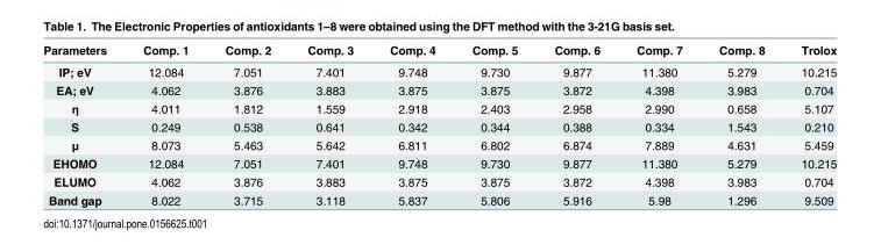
<table><thead><tr><td>Parameters</td><td>Comp. 1</td><td>Comp. 2</td><td>Comp. 3</td><td>Comp. 4</td><td>Comp. 5</td><td>Comp. 6</td><td>Comp. 7</td><td>Comp. 8</td><td>Trolox</td></tr></thead><tbody><tr><td>IP; eV</td><td>12.084</td><td>7.051</td><td>7.401</td><td>9.748</td><td>9.730</td><td>9.877</td><td>11.380</td><td>5.279</td><td>10.215</td></tr><tr><td>EA; eV</td><td>4.062</td><td>3.876</td><td>3.883</td><td>3.875</td><td>3.875</td><td>3.872</td><td>4.398</td><td>3.983</td><td>0.704</td></tr><tr><td>η</td><td>4.011</td><td>1.812</td><td>1.559</td><td>2.918</td><td>2.403</td><td>2.958</td><td>2.990</td><td>0.658</td><td>5.107</td></tr><tr><td>S</td><td>0.249</td><td>0.538</td><td>0.641</td><td>0.342</td><td>0.344</td><td>0.388</td><td>0.334</td><td>1.543</td><td>0.210</td></tr><tr><td>μ</td><td>8.073</td><td>5.463</td><td>5.642</td><td>6.811</td><td>6.802</td><td>6.874</td><td>7.889</td><td>4.631</td><td>5.459</td></tr><tr><td>EHOMO</td><td>12.084</td><td>7.051</td><td>7.401</td><td>9.748</td><td>9.730</td><td>9.877</td><td>11.380</td><td>5.279</td><td>10.215</td></tr><tr><td>ELUMO</td><td>4.062</td><td>3.876</td><td>3.883</td><td>3.875</td><td>3.875</td><td>3.872</td><td>4.398</td><td>3.983</td><td>0.704</td></tr><tr><td>Band gap</td><td>8.022</td><td>3.715</td><td>3.118</td><td>5.837</td><td>5.806</td><td>5.916</td><td>5.98</td><td>1.296</td><td>9.509</td></tr></tbody></table>